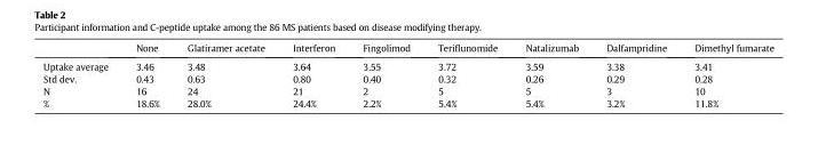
<table><thead><tr><td></td><td>None</td><td>Glatiramer acetate</td><td>Interferon</td><td>Fingolimod</td><td>Teriflunomide</td><td>Natalizumab</td><td>Dalfampridine</td><td>Dimethyl fumarate</td></tr></thead><tbody><tr><td>Uptake average</td><td>3.46</td><td>3.48</td><td>3.64</td><td>3.55</td><td>3.72</td><td>3.59</td><td>3.38</td><td>3.41</td></tr><tr><td>Std dev.</td><td>0.43</td><td>0.63</td><td>0.80</td><td>0.40</td><td>0.32</td><td>0.26</td><td>0.29</td><td>0.28</td></tr><tr><td>N</td><td>16</td><td>24</td><td>21</td><td>2</td><td>5</td><td>5</td><td>3</td><td>10</td></tr><tr><td>%</td><td>18.6%</td><td>28.0%</td><td>24.4%</td><td>2.2%</td><td>5.4%</td><td>5.4%</td><td>3.2%</td><td>11.8%</td></tr></tbody></table>